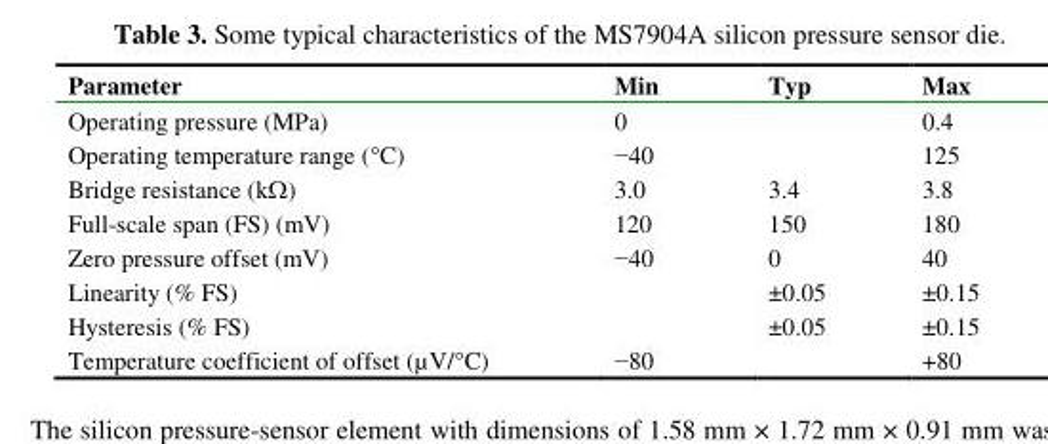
<table><thead><tr><td>Parameter</td><td>Min</td><td>Typ</td><td>Max</td></tr></thead><tbody><tr><td>Operating pressure (MPa)</td><td>0</td><td></td><td>0.4</td></tr><tr><td>Operating temperature range (°C)</td><td>−40</td><td></td><td>125</td></tr><tr><td>Bridge resistance (kΩ)</td><td>3.0</td><td>3.4</td><td>3.8</td></tr><tr><td>Full-scale span (FS) (mV)</td><td>120</td><td>150</td><td>180</td></tr><tr><td>Zero pressure offset (mV)</td><td>−40</td><td>0</td><td>40</td></tr><tr><td>Linearity (% FS)</td><td></td><td>±0.05</td><td>±0.15</td></tr><tr><td>Hysteresis (% FS)</td><td></td><td>±0.05</td><td>±0.15</td></tr><tr><td>Temperature coefficient of offset (µV/°C)</td><td>−80</td><td></td><td>+80</td></tr></tbody></table>